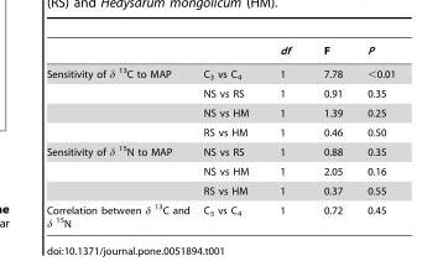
<table><thead><tr><td></td><td></td><td>df</td><td>F</td><td>P</td></tr></thead><tbody><tr><td rowspan="4">Sensitivity of δ <sup>13</sup>C to MAP</td><td>C<sub>3</sub> vs C<sub>4</sub></td><td>1</td><td>7.78</td><td>&lt;0.01</td></tr><tr><td>NS vs RS</td><td>1</td><td>0.91</td><td>0.35</td></tr><tr><td>NS vs HM</td><td>1</td><td>1.39</td><td>0.25</td></tr><tr><td>RS vs HM</td><td>1</td><td>0.46</td><td>0.50</td></tr><tr><td rowspan="3">Sensitivity of δ <sup>15</sup>N to MAP</td><td>NS vs RS</td><td>1</td><td>0.88</td><td>0.35</td></tr><tr><td>NS vs HM</td><td>1</td><td>2.05</td><td>0.16</td></tr><tr><td>RS vs HM</td><td>1</td><td>0.37</td><td>0.55</td></tr><tr><td>Correlation between δ <sup>13</sup>C and δ <sup>15</sup>N</td><td>C<sub>3</sub> vs C<sub>4</sub></td><td>1</td><td>0.72</td><td>0.45</td></tr></tbody></table>